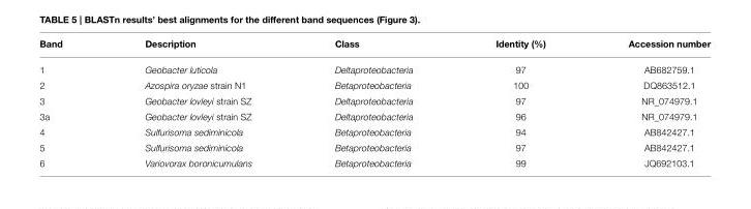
<table><thead><tr><td>Band</td><td>Description</td><td>Class</td><td>Identity (%)</td><td>Accession number</td></tr></thead><tbody><tr><td>1</td><td>Geobacter luticola</td><td>Deltaproteobacteria</td><td>97</td><td>AB682759.1</td></tr><tr><td>2</td><td>Azospira oryzae strain N1</td><td>Betaproteobacteria</td><td>100</td><td>DQ863512.1</td></tr><tr><td>3</td><td>Geobacter lovleyi strain SZ</td><td>Deltaproteobacteria</td><td>97</td><td>NR_074979.1</td></tr><tr><td>3a</td><td>Geobacter lovleyi strain SZ</td><td>Deltaproteobacteria</td><td>96</td><td>NR_074979.1</td></tr><tr><td>4</td><td>Sulfurisoma sediminicola</td><td>Betaproteobacteria</td><td>94</td><td>AB842427.1</td></tr><tr><td>5</td><td>Sulfurisoma sediminicola</td><td>Betaproteobacteria</td><td>97</td><td>AB842427.1</td></tr><tr><td>6</td><td>Variovorax boronicumulans</td><td>Betaproteobacteria</td><td>99</td><td>JQ692103.1</td></tr></tbody></table>